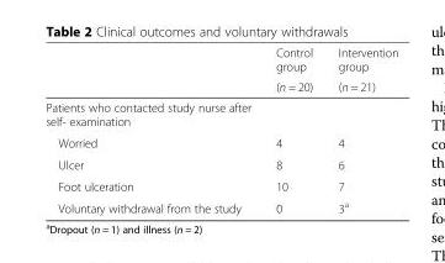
<table><thead><tr><td rowspan="2"></td><td rowspan="2">Control group (n = 20)</td><td rowspan="2">Intervention group (n = 21)</td></tr><tr></tr></thead><tbody><tr><td colspan="3">Patients who contacted study nurse after self- examination</td></tr><tr><td>Worried</td><td>4</td><td>4</td></tr><tr><td>Ulcer</td><td>8</td><td>6</td></tr><tr><td>Foot ulceration</td><td>10</td><td>7</td></tr><tr><td>Voluntary withdrawal from the study</td><td>0</td><td>3<sup>a</sup></td></tr></tbody></table>